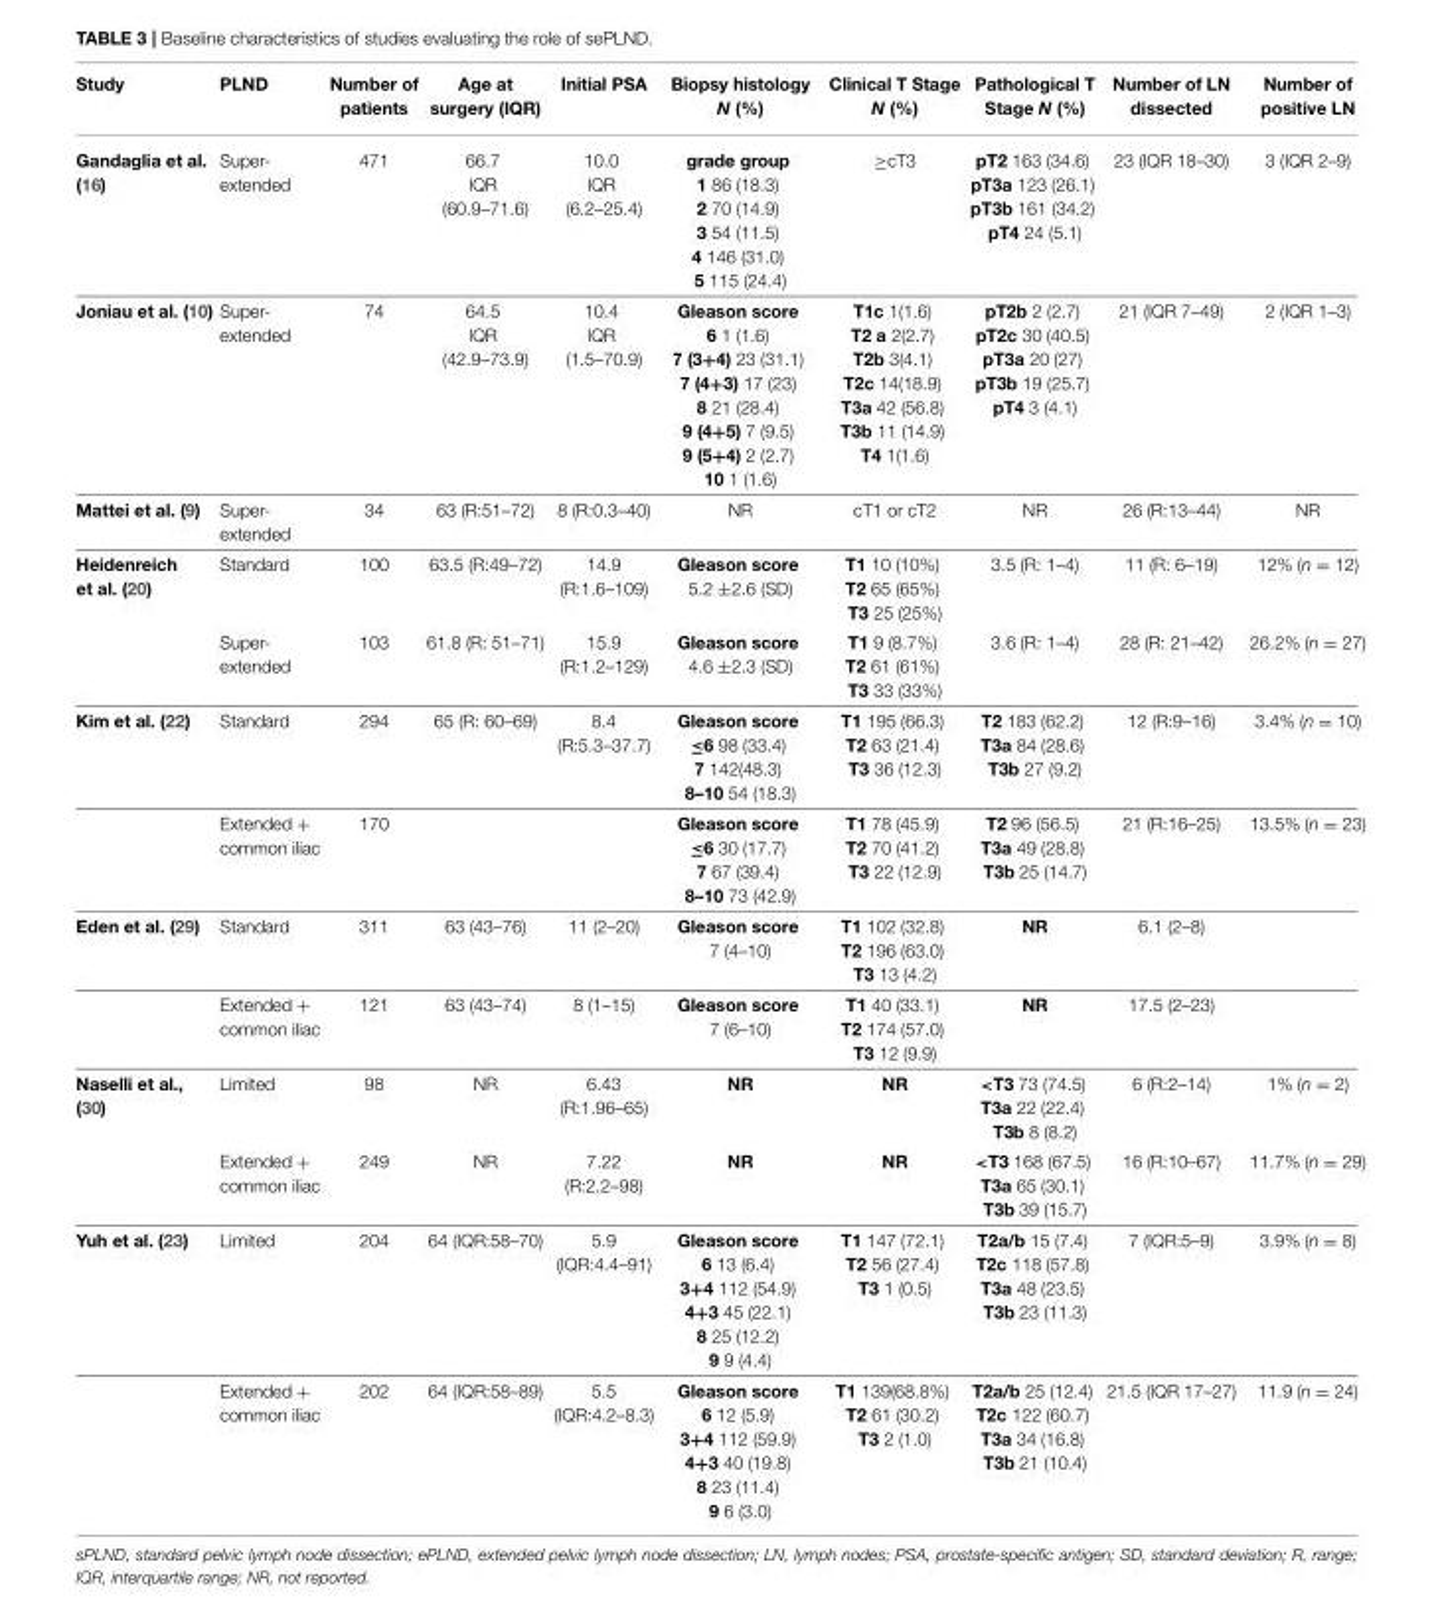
<table><thead><tr><td>Study</td><td>PLND</td><td>Number of patients</td><td>Age at surgery (IQR)</td><td>Initial PSA</td><td>Biopsy histology N (%)</td><td>Clinical T Stage N (%)</td><td>Pathological T Stage N (%)</td><td>Number of LN dissected</td><td>Number of positive LN</td></tr></thead><tbody><tr><td>Gandaglia et al. (16)</td><td>Super- extended</td><td>471</td><td>66.7 IQR (60.9–71.6)</td><td>10.0 IQR (6.2–25.4)</td><td>grade group 1 86 (18.3) 2 70 (14.9) 3 54 (11.5) 4 146 (31.0) 5 115 (24.4)</td><td>≥cT3</td><td>pT2 163 (34.6) pT3a 123 (26.1) pT3b 161 (34.2) pT4 24 (5.1)</td><td>23 (IQR 18–30)</td><td>3 (IQR 2–9)</td></tr><tr><td>Joniau et al. (10)</td><td>Super- extended</td><td>74</td><td>64.5 IQR (42.9–73.9)</td><td>10.4 IQR (1.5–70.9)</td><td>Gleason score 6 1 (1.6) 7 (3+4) 23 (31.1) 7 (4+3) 17 (23) 8 21 (28.4) 9 (4+5) 7 (9.5) 9 (5+4) 2 (2.7) 10 1 (1.6)</td><td>T1c 1(1.6) T2 a 2(2.7) T2b 3(4.1) T2c 14(18.9) T3a 42 (56.8) T3b 11 (14.9) T4 1(1.6)</td><td>pT2b 2 (2.7) pT2c 30 (40.5) pT3a 20 (27) pT3b 19 (25.7) pT4 3 (4.1)</td><td>21 (IQR 7–49)</td><td>2 (IQR 1–3)</td></tr><tr><td>Mattei et al. (9)</td><td>Super- extended</td><td>34</td><td>63 (R:51–72)</td><td>8 (R:0.3–40)</td><td>NR</td><td>cT1 or cT2</td><td>NR</td><td>26 (R:13–44)</td><td>NR</td></tr><tr><td rowspan="2">Heidenreich et al. (20)</td><td>Standard</td><td>100</td><td>63.5 (R:49–72)</td><td>14.9 (R:1.6–109)</td><td>Gleason score 5.2 ±2.6 (SD)</td><td>T1 10 (10%) T2 65 (65%) T3 25 (25%)</td><td>3.5 (R: 1–4)</td><td>11 (R: 6–19)</td><td>12% (n = 12)</td></tr><tr><td>Super- extended</td><td>103</td><td>61.8 (R: 51–71)</td><td>15.9 (R:1.2–129)</td><td>Gleason score 4.6 ±2.3 (SD)</td><td>T1 9 (8.7%) T2 61 (61%) T3 33 (33%)</td><td>3.6 (R: 1–4)</td><td>28 (R: 21–42)</td><td>26.2% (n = 27)</td></tr><tr><td rowspan="2">Kim et al. (22)</td><td>Standard</td><td>294</td><td>65 (R: 60–69)</td><td>8.4 (R:5.3–37.7)</td><td>Gleason score ≤6 98 (33.4) 7 142(48.3) 8–10 54 (18.3)</td><td>T1 195 (66.3) T2 63 (21.4) T3 36 (12.3)</td><td>T2 183 (62.2) T3a 84 (28.6) T3b 27 (9.2)</td><td>12 (R:9–16)</td><td>3.4% (n = 10)</td></tr><tr><td>Extended + common iliac</td><td>170</td><td></td><td></td><td>Gleason score ≤6 30 (17.7) 7 67 (39.4) 8–10 73 (42.9)</td><td>T1 78 (45.9) T2 70 (41.2) T3 22 (12.9)</td><td>T2 96 (56.5) T3a 49 (28.8) T3b 25 (14.7)</td><td>21 (R:16–25)</td><td>13.5% (n = 23)</td></tr><tr><td rowspan="2">Eden et al. (29)</td><td>Standard</td><td>311</td><td>63 (43–76)</td><td>11 (2–20)</td><td>Gleason score 7 (4–10)</td><td>T1 102 (32.8) T2 196 (63.0) T3 13 (4.2)</td><td>NR</td><td>6.1 (2–8)</td><td></td></tr><tr><td>Extended + common iliac</td><td>121</td><td>63 (43–74)</td><td>8 (1–15)</td><td>Gleason score 7 (6–10)</td><td>T1 40 (33.1) T2 174 (57.0) T3 12 (9.9)</td><td>NR</td><td>17.5 (2–23)</td><td></td></tr><tr><td rowspan="2">Naselli et al., (30)</td><td>Limited</td><td>98</td><td>NR</td><td>6.43 (R:1.96–65)</td><td>NR</td><td>NR</td><td>&lt;T3 73 (74.5) T3a 22 (22.4) T3b 8 (8.2)</td><td>6 (R:2–14)</td><td>1% (n = 2)</td></tr><tr><td>Extended + common iliac</td><td>249</td><td>NR</td><td>7.22 (R:2.2–98)</td><td>NR</td><td>NR</td><td>&lt;T3 168 (67.5) T3a 65 (30.1) T3b 39 (15.7)</td><td>16 (R:10–67)</td><td>11.7% (n = 29)</td></tr><tr><td rowspan="2">Yuh et al. (23)</td><td>Limited</td><td>204</td><td>64 (IQR:58–70)</td><td>5.9 (IQR:4.4–91)</td><td>Gleason score 6 13 (6.4) 3+4 112 (54.9) 4+3 45 (22.1) 8 25 (12.2) 9 9 (4.4)</td><td>T1 147 (72.1) T2 56 (27.4) T3 1 (0.5)</td><td>T2a/b 15 (7.4) T2c 118 (57.8) T3a 48 (23.5) T3b 23 (11.3)</td><td>7 (IQR:5–9)</td><td>3.9% (n = 8)</td></tr><tr><td>Extended + common iliac</td><td>202</td><td>64 (IQR:58–89)</td><td>5.5 (IQR:4.2–8.3)</td><td>Gleason score 6 12 (5.9) 3+4 112 (59.9) 4+3 40 (19.8) 8 23 (11.4) 9 6 (3.0)</td><td>T1 139(68.8%) T2 61 (30.2) T3 2 (1.0)</td><td>T2a/b 25 (12.4) T2c 122 (60.7) T3a 34 (16.8) T3b 21 (10.4)</td><td>21.5 (IQR 17–27)</td><td>11.9 (n = 24)</td></tr></tbody></table>